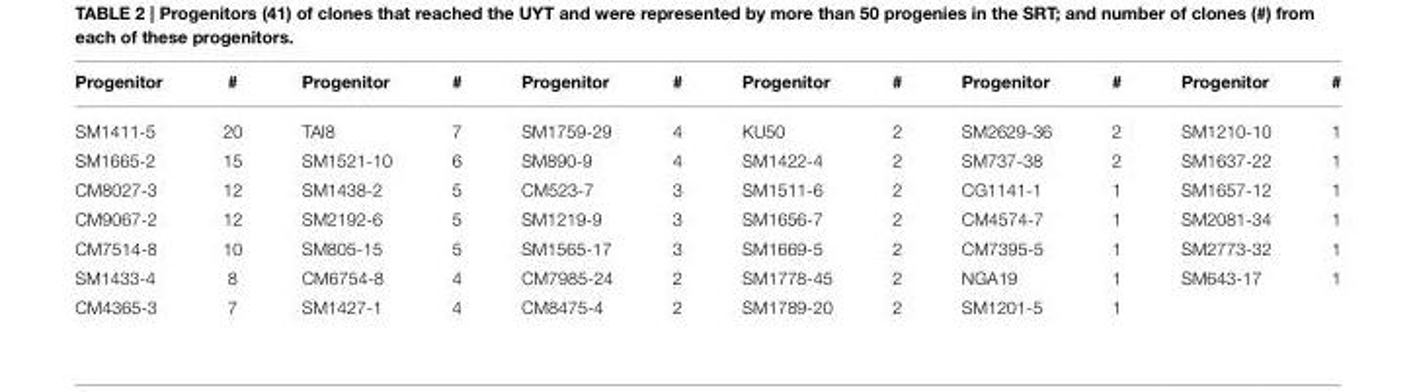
<table><thead><tr><td>Progenitor</td><td>#</td><td>Progenitor</td><td>#</td><td>Progenitor</td><td>#</td><td>Progenitor</td><td>#</td><td>Progenitor</td><td>#</td><td>Progenitor</td><td>#</td></tr></thead><tbody><tr><td>SM1411-5</td><td>20</td><td>TAI8</td><td>7</td><td>SM1759-29</td><td>4</td><td>KU50</td><td>2</td><td>SM2629-36</td><td>2</td><td>SM1210-10</td><td>1</td></tr><tr><td>SM1665-2</td><td>15</td><td>SM1521-10</td><td>6</td><td>SM890-9</td><td>4</td><td>SM1422-4</td><td>2</td><td>SM737-38</td><td>2</td><td>SM1637-22</td><td>1</td></tr><tr><td>CM8027-3</td><td>12</td><td>SM1438-2</td><td>5</td><td>CM523-7</td><td>3</td><td>SM1511-6</td><td>2</td><td>CG1141-1</td><td>1</td><td>SM1657-12</td><td>1</td></tr><tr><td>CM9067-2</td><td>12</td><td>SM2192-6</td><td>5</td><td>SM1219-9</td><td>3</td><td>SM1656-7</td><td>2</td><td>CM4574-7</td><td>1</td><td>SM2081-34</td><td>1</td></tr><tr><td>CM7514-8</td><td>10</td><td>SM805-15</td><td>5</td><td>SM1565-17</td><td>3</td><td>SM1669-5</td><td>2</td><td>CM7395-5</td><td>1</td><td>SM2773-32</td><td>1</td></tr><tr><td>SM1433-4</td><td>8</td><td>CM6754-8</td><td>4</td><td>CM7985-24</td><td>2</td><td>SM1778-45</td><td>2</td><td>NGA19</td><td>1</td><td>SM643-17</td><td>1</td></tr><tr><td>CM4365-3</td><td>7</td><td>SM1427-1</td><td>4</td><td>CM8475-4</td><td>2</td><td>SM1789-20</td><td>2</td><td>SM1201-5</td><td>1</td><td></td><td></td></tr></tbody></table>